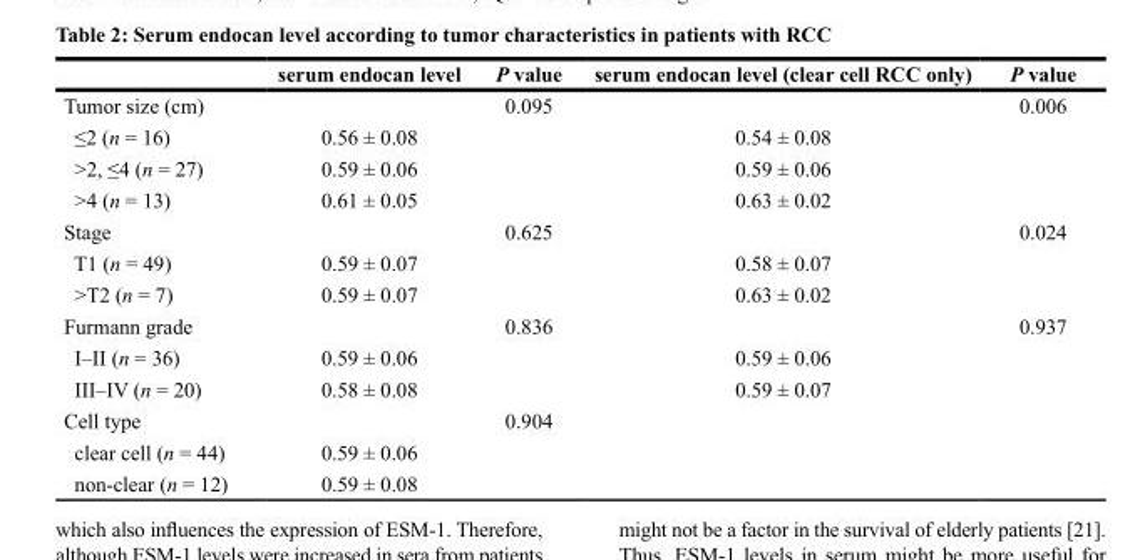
<table><thead><tr><td></td><td>serum endocan level</td><td>P value</td><td>serum endocan level (clear cell RCC only)</td><td>P value</td></tr></thead><tbody><tr><td>Tumor size (cm)</td><td></td><td>0.095</td><td></td><td>0.006</td></tr><tr><td>≤2 (n = 16)</td><td>0.56 ± 0.08</td><td></td><td>0.54 ± 0.08</td><td></td></tr><tr><td>&gt;2, ≤4 (n = 27)</td><td>0.59 ± 0.06</td><td></td><td>0.59 ± 0.06</td><td></td></tr><tr><td>&gt;4 (n = 13)</td><td>0.61 ± 0.05</td><td></td><td>0.63 ± 0.02</td><td></td></tr><tr><td>Stage</td><td></td><td>0.625</td><td></td><td>0.024</td></tr><tr><td>T1 (n = 49)</td><td>0.59 ± 0.07</td><td></td><td>0.58 ± 0.07</td><td></td></tr><tr><td>&gt;T2 (n = 7)</td><td>0.59 ± 0.07</td><td></td><td>0.63 ± 0.02</td><td></td></tr><tr><td>Furmann grade</td><td></td><td>0.836</td><td></td><td>0.937</td></tr><tr><td>I–II (n = 36)</td><td>0.59 ± 0.06</td><td></td><td>0.59 ± 0.06</td><td></td></tr><tr><td>III–IV (n = 20)</td><td>0.58 ± 0.08</td><td></td><td>0.59 ± 0.07</td><td></td></tr><tr><td>Cell type</td><td></td><td>0.904</td><td></td><td></td></tr><tr><td>clear cell (n = 44)</td><td>0.59 ± 0.06</td><td></td><td></td><td></td></tr><tr><td>non-clear (n = 12)</td><td>0.59 ± 0.08</td><td></td><td></td><td></td></tr></tbody></table>